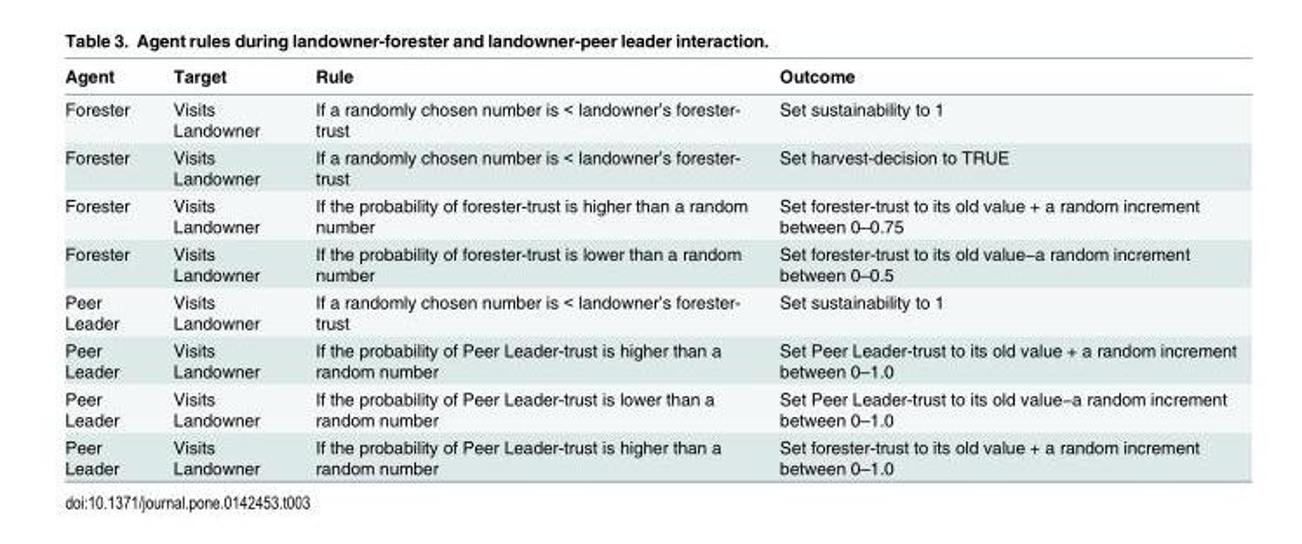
<table><thead><tr><td>Agent</td><td>Target</td><td>Rule</td><td>Outcome</td></tr></thead><tbody><tr><td>Forester</td><td>Visits Landowner</td><td>If a randomly chosen number is &lt; landowner’s forester- trust</td><td>Set sustainability to 1</td></tr><tr><td>Forester</td><td>Visits Landowner</td><td>If a randomly chosen number is &lt; landowner’s forester- trust</td><td>Set harvest-decision to TRUE</td></tr><tr><td>Forester</td><td>Visits Landowner</td><td>If the probability of forester-trust is higher than a random number</td><td>Set forester-trust to its old value + a random increment between 0–0.75</td></tr><tr><td>Forester</td><td>Visits Landowner</td><td>If the probability of forester-trust is lower than a random number</td><td>Set forester-trust to its old value−a random increment between 0–0.5</td></tr><tr><td>Peer Leader</td><td>Visits Landowner</td><td>If a randomly chosen number is &lt; landowner’s forester- trust</td><td>Set sustainability to 1</td></tr><tr><td>Peer Leader</td><td>Visits Landowner</td><td>If the probability of Peer Leader-trust is higher than a random number</td><td>Set Peer Leader-trust to its old value + a random increment between 0–1.0</td></tr><tr><td>Peer Leader</td><td>Visits Landowner</td><td>If the probability of Peer Leader-trust is lower than a random number</td><td>Set Peer Leader-trust to its old value−a random increment between 0–1.0</td></tr><tr><td>Peer Leader</td><td>Visits Landowner</td><td>If the probability of Peer Leader-trust is higher than a random number</td><td>Set forester-trust to its old value + a random increment between 0–1.0</td></tr></tbody></table>